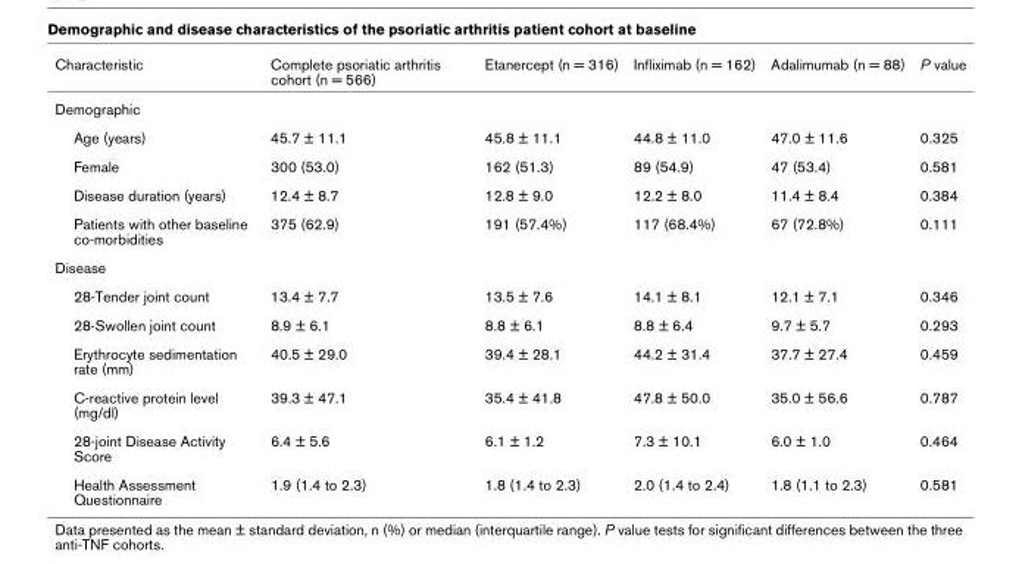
<table><thead><tr><td>Characteristic</td><td>Complete psoriatic arthritis cohort (n = 566)</td><td>Etanercept (n = 316)</td><td>Infliximab (n = 162)</td><td>Adalimumab (n = 88)</td><td>P value</td></tr></thead><tbody><tr><td colspan="6">Demographic</td></tr><tr><td>Age (years)</td><td>45.7 ± 11.1</td><td>45.8 ± 11.1</td><td>44.8 ± 11.0</td><td>47.0 ± 11.6</td><td>0.325</td></tr><tr><td>Female</td><td>300 (53.0)</td><td>162 (51.3)</td><td>89 (54.9)</td><td>47 (53.4)</td><td>0.581</td></tr><tr><td>Disease duration (years)</td><td>12.4 ± 8.7</td><td>12.8 ± 9.0</td><td>12.2 ± 8.0</td><td>11.4 ± 8.4</td><td>0.384</td></tr><tr><td>Patients with other baseline co-morbidities</td><td>375 (62.9)</td><td>191 (57.4%)</td><td>117 (68.4%)</td><td>67 (72.8%)</td><td>0.111</td></tr><tr><td colspan="6">Disease</td></tr><tr><td>28-Tender joint count</td><td>13.4 ± 7.7</td><td>13.5 ± 7.6</td><td>14.1 ± 8.1</td><td>12.1 ± 7.1</td><td>0.346</td></tr><tr><td>28-Swollen joint count</td><td>8.9 ± 6.1</td><td>8.8 ± 6.1</td><td>8.8 ± 6.4</td><td>9.7 ± 5.7</td><td>0.293</td></tr><tr><td>Erythrocyte sedimentation rate (mm)</td><td>40.5 ± 29.0</td><td>39.4 ± 28.1</td><td>44.2 ± 31.4</td><td>37.7 ± 27.4</td><td>0.459</td></tr><tr><td>C-reactive protein level (mg/dl)</td><td>39.3 ± 47.1</td><td>35.4 ± 41.8</td><td>47.8 ± 50.0</td><td>35.0 ± 56.6</td><td>0.787</td></tr><tr><td>28-joint Disease Activity Score</td><td>6.4 ± 5.6</td><td>6.1 ± 1.2</td><td>7.3 ± 10.1</td><td>6.0 ± 1.0</td><td>0.464</td></tr><tr><td>Health Assessment Questionnaire</td><td>1.9 (1.4 to 2.3)</td><td>1.8 (1.4 to 2.3)</td><td>2.0 (1.4 to 2.4)</td><td>1.8 (1.1 to 2.3)</td><td>0.581</td></tr></tbody></table>